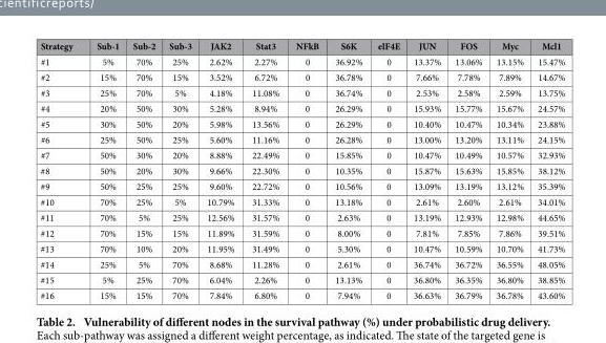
<table><thead><tr><td>Strategy</td><td>Sub-1</td><td>Sub-2</td><td>Sub-3</td><td>JAK2</td><td>Stat3</td><td>NFkB</td><td>S6K</td><td>elF4E</td><td>JUN</td><td>FOS</td><td>Myc</td><td>Mcl1</td></tr></thead><tbody><tr><td>#1</td><td>5%</td><td>70%</td><td>25%</td><td>2.62%</td><td>2.27%</td><td>0</td><td>36.92%</td><td>0</td><td>13.37%</td><td>13.06%</td><td>13.15%</td><td>15.47%</td></tr><tr><td>#2</td><td>15%</td><td>70%</td><td>15%</td><td>3.52%</td><td>6.72%</td><td>0</td><td>36.78%</td><td>0</td><td>7.66%</td><td>7.78%</td><td>7.89%</td><td>14.67%</td></tr><tr><td>#3</td><td>25%</td><td>70%</td><td>5%</td><td>4.18%</td><td>11.08%</td><td>0</td><td>36.74%</td><td>0</td><td>2.53%</td><td>2.58%</td><td>2.59%</td><td>13.75%</td></tr><tr><td>#4</td><td>20%</td><td>50%</td><td>30%</td><td>5.28%</td><td>8.94%</td><td>0</td><td>26.29%</td><td>0</td><td>15.93%</td><td>15.77%</td><td>15.67%</td><td>24.57%</td></tr><tr><td>#5</td><td>30%</td><td>50%</td><td>20%</td><td>5.98%</td><td>13.56%</td><td>0</td><td>26.29%</td><td>0</td><td>10.40%</td><td>10.47%</td><td>10.34%</td><td>23.88%</td></tr><tr><td>#6</td><td>25%</td><td>50%</td><td>25%</td><td>5.60%</td><td>11.16%</td><td>0</td><td>26.28%</td><td>0</td><td>13.00%</td><td>13.20%</td><td>13.11%</td><td>24.15%</td></tr><tr><td>#7</td><td>50%</td><td>30%</td><td>20%</td><td>8.88%</td><td>22.49%</td><td>0</td><td>15.85%</td><td>0</td><td>10.47%</td><td>10.49%</td><td>10.57%</td><td>32.93%</td></tr><tr><td>#8</td><td>50%</td><td>20%</td><td>30%</td><td>9.66%</td><td>22.30%</td><td>0</td><td>10.35%</td><td>0</td><td>15.87%</td><td>15.63%</td><td>15.85%</td><td>38.12%</td></tr><tr><td>#9</td><td>50%</td><td>25%</td><td>25%</td><td>9.60%</td><td>22.72%</td><td>0</td><td>10.56%</td><td>0</td><td>13.09%</td><td>13.19%</td><td>13.12%</td><td>35.39%</td></tr><tr><td>#10</td><td>70%</td><td>25%</td><td>5%</td><td>10.79%</td><td>31.33%</td><td>0</td><td>13.18%</td><td>0</td><td>2.61%</td><td>2.60%</td><td>2.61%</td><td>34.01%</td></tr><tr><td>#11</td><td>70%</td><td>5%</td><td>25%</td><td>12.56%</td><td>31.57%</td><td>0</td><td>2.63%</td><td>0</td><td>13.19%</td><td>12.93%</td><td>12.98%</td><td>44.65%</td></tr><tr><td>#12</td><td>70%</td><td>15%</td><td>15%</td><td>11.89%</td><td>31.59%</td><td>0</td><td>8.00%</td><td>0</td><td>7.81%</td><td>7.85%</td><td>7.86%</td><td>39.51%</td></tr><tr><td>#13</td><td>70%</td><td>10%</td><td>20%</td><td>11.95%</td><td>31.49%</td><td>0</td><td>5.30%</td><td>0</td><td>10.47%</td><td>10.59%</td><td>10.70%</td><td>41.73%</td></tr><tr><td>#14</td><td>25%</td><td>5%</td><td>70%</td><td>8.68%</td><td>11.28%</td><td>0</td><td>2.61%</td><td>0</td><td>36.74%</td><td>36.72%</td><td>36.55%</td><td>48.05%</td></tr><tr><td>#15</td><td>5%</td><td>25%</td><td>70%</td><td>6.04%</td><td>2.26%</td><td>0</td><td>13.13%</td><td>0</td><td>36.80%</td><td>36.35%</td><td>36.80%</td><td>38.85%</td></tr><tr><td>#16</td><td>15%</td><td>15%</td><td>70%</td><td>7.84%</td><td>6.80%</td><td>0</td><td>7.94%</td><td>0</td><td>36.63%</td><td>36.79%</td><td>36.78%</td><td>43.60%</td></tr></tbody></table>